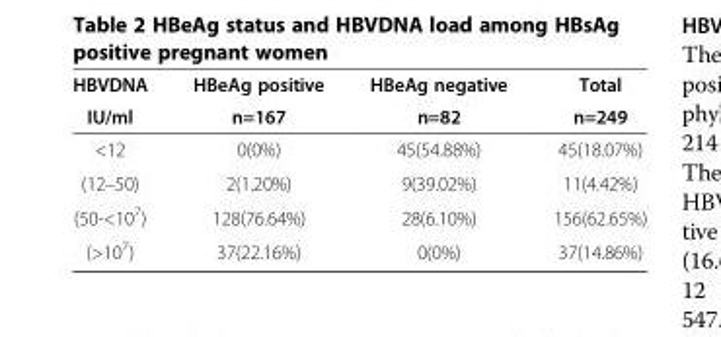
<table><thead><tr><td rowspan="2">HBVDNA IU/ml</td><td rowspan="2">HBeAg positive n=167</td><td rowspan="2">HBeAg negative n=82</td><td rowspan="2">Total n=249</td></tr><tr></tr></thead><tbody><tr><td>&lt;12</td><td>0(0%)</td><td>45(54.88%)</td><td>45(18.07%)</td></tr><tr><td>(12–50)</td><td>2(1.20%)</td><td>9(39.02%)</td><td>11(4.42%)</td></tr><tr><td>(50-&lt;10<sup>7</sup>)</td><td>128(76.64%)</td><td>28(6.10%)</td><td>156(62.65%)</td></tr><tr><td>(&gt;10<sup>7</sup>)</td><td>37(22.16%)</td><td>0(0%)</td><td>37(14.86%)</td></tr></tbody></table>